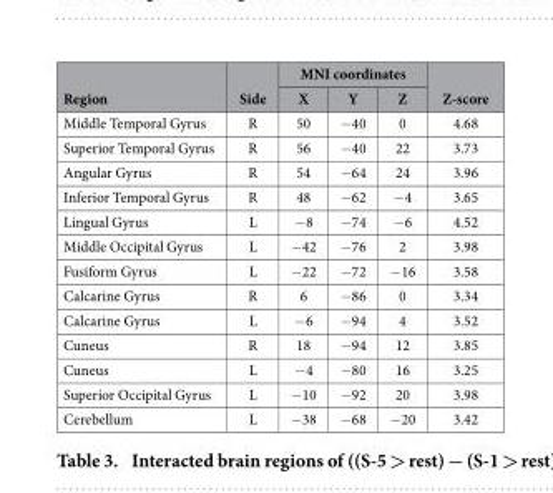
<table><thead><tr><td rowspan="2">Region</td><td rowspan="2">Side</td><td colspan="3">MNI coordinates</td><td rowspan="2">Z-score</td></tr><tr><td>X</td><td>Y</td><td>Z</td></tr></thead><tbody><tr><td>Middle Temporal Gyrus</td><td>R</td><td>50</td><td>− 40</td><td>0</td><td>4.68</td></tr><tr><td>Superior Temporal Gyrus</td><td>R</td><td>56</td><td>− 40</td><td>22</td><td>3.73</td></tr><tr><td>Angular Gyrus</td><td>R</td><td>54</td><td>− 64</td><td>24</td><td>3.96</td></tr><tr><td>Inferior Temporal Gyrus</td><td>R</td><td>48</td><td>− 62</td><td>− 4</td><td>3.65</td></tr><tr><td>Lingual Gyrus</td><td>L</td><td>− 8</td><td>− 74</td><td>− 6</td><td>4.52</td></tr><tr><td>Middle Occipital Gyrus</td><td>L</td><td>− 42</td><td>− 76</td><td>2</td><td>3.98</td></tr><tr><td>Fusiform Gyrus</td><td>L</td><td>− 22</td><td>− 72</td><td>− 16</td><td>3.58</td></tr><tr><td>Calcarine Gyrus</td><td>R</td><td>6</td><td>− 86</td><td>0</td><td>3.34</td></tr><tr><td>Calcarine Gyrus</td><td>L</td><td>− 6</td><td>− 94</td><td>4</td><td>3.52</td></tr><tr><td>Cuneus</td><td>R</td><td>18</td><td>− 94</td><td>12</td><td>3.85</td></tr><tr><td>Cuneus</td><td>L</td><td>− 4</td><td>− 80</td><td>16</td><td>3.25</td></tr><tr><td>Superior Occipital Gyrus</td><td>L</td><td>− 10</td><td>− 92</td><td>20</td><td>3.98</td></tr><tr><td>Cerebellum</td><td>L</td><td>− 38</td><td>− 68</td><td>− 20</td><td>3.42</td></tr></tbody></table>